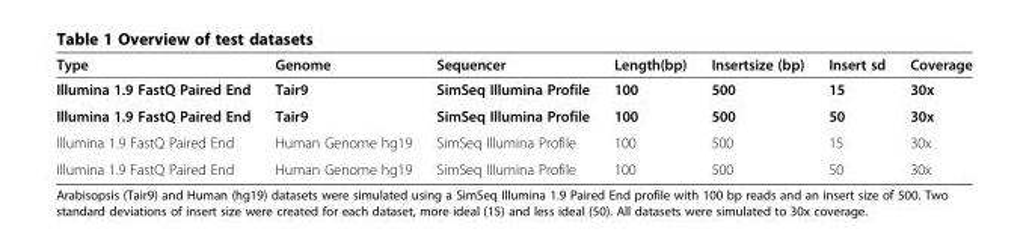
<table><thead><tr><td>Type</td><td>Genome</td><td>Sequencer</td><td>Length(bp)</td><td>Insertsize (bp)</td><td>Insert sd</td><td>Coverage</td></tr></thead><tbody><tr><td>Illumina 1.9 FastQ Paired End</td><td>Tair9</td><td>SimSeq Illumina Profile</td><td>100</td><td>500</td><td>15</td><td>30x</td></tr><tr><td>Illumina 1.9 FastQ Paired End</td><td>Tair9</td><td>SimSeq Illumina Profile</td><td>100</td><td>500</td><td>50</td><td>30x</td></tr><tr><td>Illumina 1.9 FastQ Paired End</td><td>Human Genome hg19</td><td>SimSeq Illumina Profile</td><td>100</td><td>500</td><td>15</td><td>30x</td></tr><tr><td>Illumina 1.9 FastQ Paired End</td><td>Human Genome hg19</td><td>SimSeq Illumina Profile</td><td>100</td><td>500</td><td>50</td><td>30x</td></tr></tbody></table>